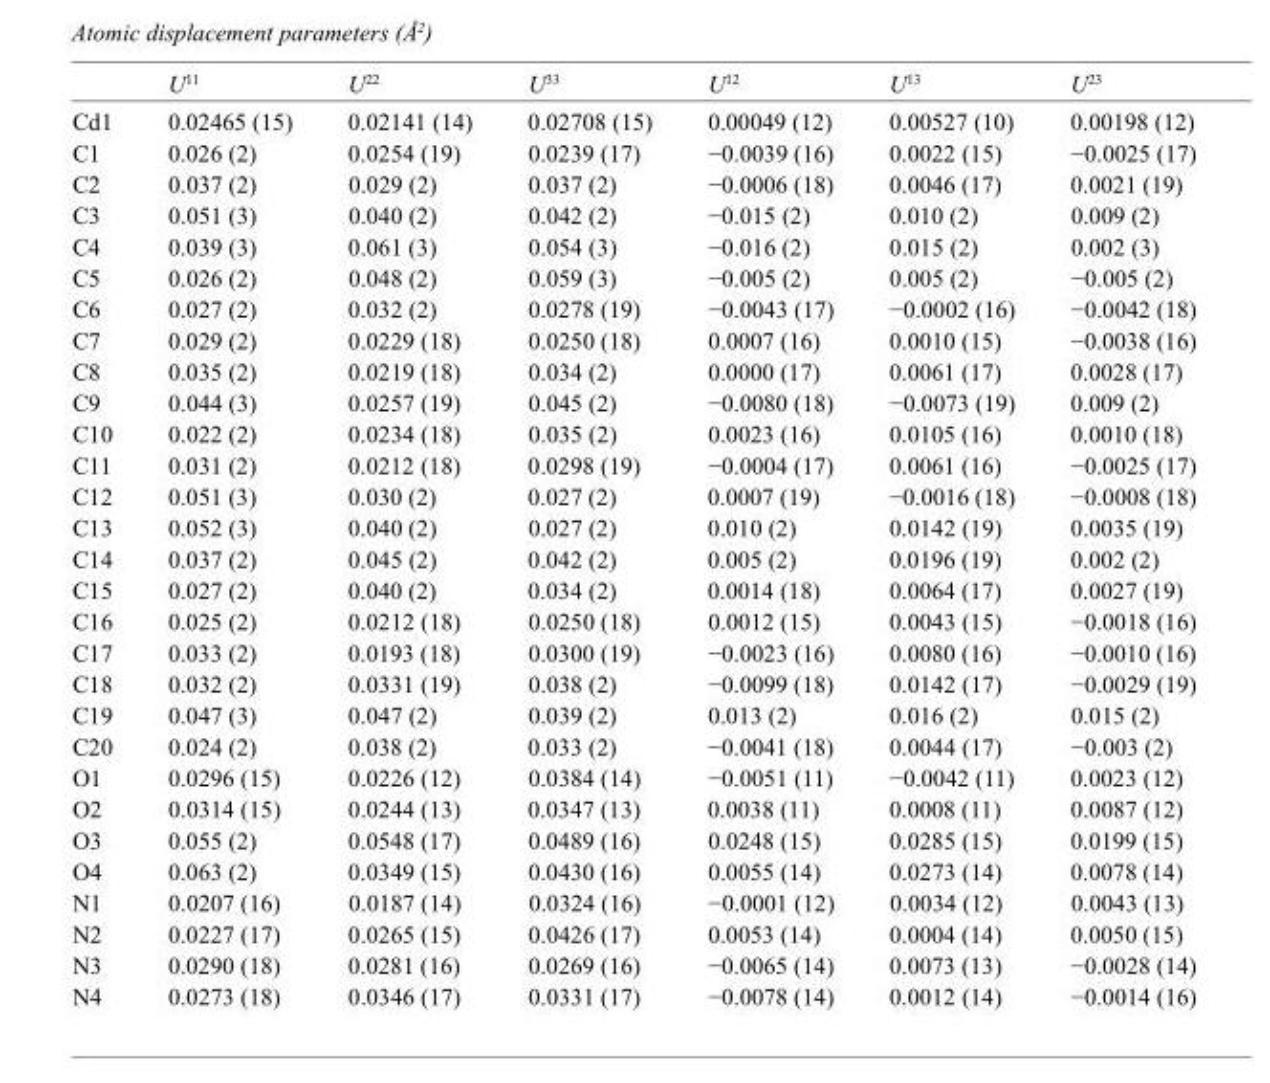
<table><thead><tr><td></td><td>U<sup>11</sup></td><td>U<sup>22</sup></td><td>U<sup>33</sup></td><td>U<sup>12</sup></td><td>U<sup>13</sup></td><td>U<sup>23</sup></td></tr></thead><tbody><tr><td>Cd1</td><td>0.02465 (15)</td><td>0.02141 (14)</td><td>0.02708 (15)</td><td>0.00049 (12)</td><td>0.00527 (10)</td><td>0.00198 (12)</td></tr><tr><td>C1</td><td>0.026 (2)</td><td>0.0254 (19)</td><td>0.0239 (17)</td><td>−0.0039 (16)</td><td>0.0022 (15)</td><td>−0.0025 (17)</td></tr><tr><td>C2</td><td>0.037 (2)</td><td>0.029 (2)</td><td>0.037 (2)</td><td>−0.0006 (18)</td><td>0.0046 (17)</td><td>0.0021 (19)</td></tr><tr><td>C3</td><td>0.051 (3)</td><td>0.040 (2)</td><td>0.042 (2)</td><td>−0.015 (2)</td><td>0.010 (2)</td><td>0.009 (2)</td></tr><tr><td>C4</td><td>0.039 (3)</td><td>0.061 (3)</td><td>0.054 (3)</td><td>−0.016 (2)</td><td>0.015 (2)</td><td>0.002 (3)</td></tr><tr><td>C5</td><td>0.026 (2)</td><td>0.048 (2)</td><td>0.059 (3)</td><td>−0.005 (2)</td><td>0.005 (2)</td><td>−0.005 (2)</td></tr><tr><td>C6</td><td>0.027 (2)</td><td>0.032 (2)</td><td>0.0278 (19)</td><td>−0.0043 (17)</td><td>−0.0002 (16)</td><td>−0.0042 (18)</td></tr><tr><td>C7</td><td>0.029 (2)</td><td>0.0229 (18)</td><td>0.0250 (18)</td><td>0.0007 (16)</td><td>0.0010 (15)</td><td>−0.0038 (16)</td></tr><tr><td>C8</td><td>0.035 (2)</td><td>0.0219 (18)</td><td>0.034 (2)</td><td>0.0000 (17)</td><td>0.0061 (17)</td><td>0.0028 (17)</td></tr><tr><td>C9</td><td>0.044 (3)</td><td>0.0257 (19)</td><td>0.045 (2)</td><td>−0.0080 (18)</td><td>−0.0073 (19)</td><td>0.009 (2)</td></tr><tr><td>C10</td><td>0.022 (2)</td><td>0.0234 (18)</td><td>0.035 (2)</td><td>0.0023 (16)</td><td>0.0105 (16)</td><td>0.0010 (18)</td></tr><tr><td>C11</td><td>0.031 (2)</td><td>0.0212 (18)</td><td>0.0298 (19)</td><td>−0.0004 (17)</td><td>0.0061 (16)</td><td>−0.0025 (17)</td></tr><tr><td>C12</td><td>0.051 (3)</td><td>0.030 (2)</td><td>0.027 (2)</td><td>0.0007 (19)</td><td>−0.0016 (18)</td><td>−0.0008 (18)</td></tr><tr><td>C13</td><td>0.052 (3)</td><td>0.040 (2)</td><td>0.027 (2)</td><td>0.010 (2)</td><td>0.0142 (19)</td><td>0.0035 (19)</td></tr><tr><td>C14</td><td>0.037 (2)</td><td>0.045 (2)</td><td>0.042 (2)</td><td>0.005 (2)</td><td>0.0196 (19)</td><td>0.002 (2)</td></tr><tr><td>C15</td><td>0.027 (2)</td><td>0.040 (2)</td><td>0.034 (2)</td><td>0.0014 (18)</td><td>0.0064 (17)</td><td>0.0027 (19)</td></tr><tr><td>C16</td><td>0.025 (2)</td><td>0.0212 (18)</td><td>0.0250 (18)</td><td>0.0012 (15)</td><td>0.0043 (15)</td><td>−0.0018 (16)</td></tr><tr><td>C17</td><td>0.033 (2)</td><td>0.0193 (18)</td><td>0.0300 (19)</td><td>−0.0023 (16)</td><td>0.0080 (16)</td><td>−0.0010 (16)</td></tr><tr><td>C18</td><td>0.032 (2)</td><td>0.0331 (19)</td><td>0.038 (2)</td><td>−0.0099 (18)</td><td>0.0142 (17)</td><td>−0.0029 (19)</td></tr><tr><td>C19</td><td>0.047 (3)</td><td>0.047 (2)</td><td>0.039 (2)</td><td>0.013 (2)</td><td>0.016 (2)</td><td>0.015 (2)</td></tr><tr><td>C20</td><td>0.024 (2)</td><td>0.038 (2)</td><td>0.033 (2)</td><td>−0.0041 (18)</td><td>0.0044 (17)</td><td>−0.003 (2)</td></tr><tr><td>O1</td><td>0.0296 (15)</td><td>0.0226 (12)</td><td>0.0384 (14)</td><td>−0.0051 (11)</td><td>−0.0042 (11)</td><td>0.0023 (12)</td></tr><tr><td>O2</td><td>0.0314 (15)</td><td>0.0244 (13)</td><td>0.0347 (13)</td><td>0.0038 (11)</td><td>0.0008 (11)</td><td>0.0087 (12)</td></tr><tr><td>O3</td><td>0.055 (2)</td><td>0.0548 (17)</td><td>0.0489 (16)</td><td>0.0248 (15)</td><td>0.0285 (15)</td><td>0.0199 (15)</td></tr><tr><td>O4</td><td>0.063 (2)</td><td>0.0349 (15)</td><td>0.0430 (16)</td><td>0.0055 (14)</td><td>0.0273 (14)</td><td>0.0078 (14)</td></tr><tr><td>N1</td><td>0.0207 (16)</td><td>0.0187 (14)</td><td>0.0324 (16)</td><td>−0.0001 (12)</td><td>0.0034 (12)</td><td>0.0043 (13)</td></tr><tr><td>N2</td><td>0.0227 (17)</td><td>0.0265 (15)</td><td>0.0426 (17)</td><td>0.0053 (14)</td><td>0.0004 (14)</td><td>0.0050 (15)</td></tr><tr><td>N3</td><td>0.0290 (18)</td><td>0.0281 (16)</td><td>0.0269 (16)</td><td>−0.0065 (14)</td><td>0.0073 (13)</td><td>−0.0028 (14)</td></tr><tr><td>N4</td><td>0.0273 (18)</td><td>0.0346 (17)</td><td>0.0331 (17)</td><td>−0.0078 (14)</td><td>0.0012 (14)</td><td>−0.0014 (16)</td></tr></tbody></table>